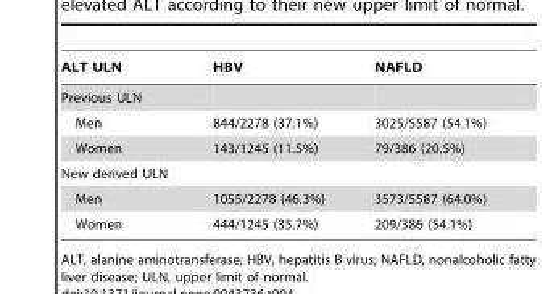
<table><thead><tr><td>ALT ULN</td><td>HBV</td><td>NAFLD</td></tr></thead><tbody><tr><td colspan="3">Previous ULN</td></tr><tr><td>Men</td><td>844/2278 (37.1%)</td><td>3025/5587 (54.1%)</td></tr><tr><td>Women</td><td>143/1245 (11.5%)</td><td>79/386 (20.5%)</td></tr><tr><td colspan="3">New derived ULN</td></tr><tr><td>Men</td><td>1055/2278 (46.3%)</td><td>3573/5587 (64.0%)</td></tr><tr><td>Women</td><td>444/1245 (35.7%)</td><td>209/386 (54.1%)</td></tr></tbody></table>